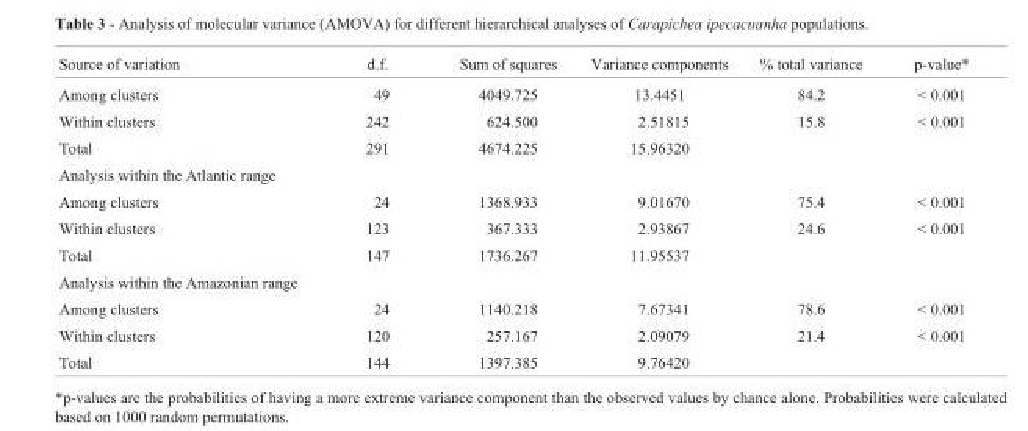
<table><thead><tr><td>Source of variation</td><td>d.f.</td><td>Sum of squares</td><td>Variance components</td><td>% total variance</td><td>p-value*</td></tr></thead><tbody><tr><td>Among clusters</td><td>49</td><td>4049.725</td><td>13.4451</td><td>84.2</td><td>&lt; 0.001</td></tr><tr><td>Within clusters</td><td>242</td><td>624.500</td><td>2.51815</td><td>15.8</td><td>&lt; 0.001</td></tr><tr><td>Total</td><td>291</td><td>4674.225</td><td>15.96320</td><td></td><td></td></tr><tr><td colspan="6">Analysis within the Atlantic range</td></tr><tr><td>Among clusters</td><td>24</td><td>1368.933</td><td>9.01670</td><td>75.4</td><td>&lt; 0.001</td></tr><tr><td>Within clusters</td><td>123</td><td>367.333</td><td>2.93867</td><td>24.6</td><td>&lt; 0.001</td></tr><tr><td>Total</td><td>147</td><td>1736.267</td><td>11.95537</td><td></td><td></td></tr><tr><td colspan="6">Analysis within the Amazonian range</td></tr><tr><td>Among clusters</td><td>24</td><td>1140.218</td><td>7.67341</td><td>78.6</td><td>&lt; 0.001</td></tr><tr><td>Within clusters</td><td>120</td><td>257.167</td><td>2.09079</td><td>21.4</td><td>&lt; 0.001</td></tr><tr><td>Total</td><td>144</td><td>1397.385</td><td>9.76420</td><td></td><td></td></tr></tbody></table>